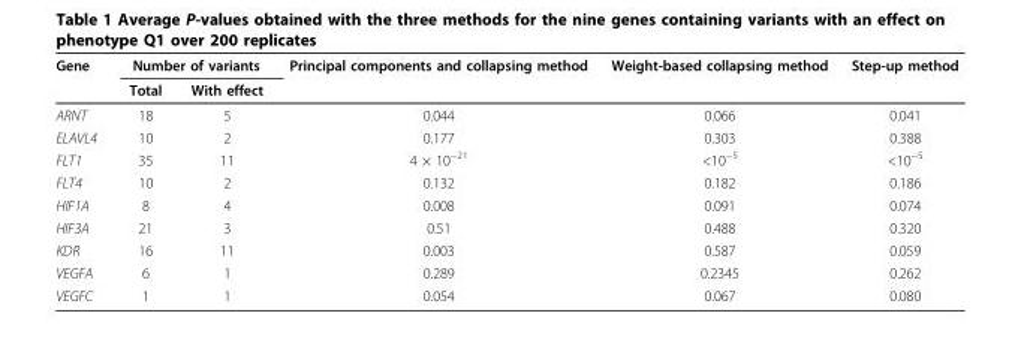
<table><thead><tr><td rowspan="2">Gene</td><td colspan="2">Number of variants</td><td rowspan="2">Principal components and collapsing method</td><td rowspan="2">Weight-based collapsing method</td><td rowspan="2">Step-up method</td></tr><tr><td>Total</td><td>With effect</td></tr></thead><tbody><tr><td>ARNT</td><td>18</td><td>5</td><td>0.044</td><td>0.066</td><td>0.041</td></tr><tr><td>ELAVL4</td><td>10</td><td>2</td><td>0.177</td><td>0.303</td><td>0.388</td></tr><tr><td>FLT1</td><td>35</td><td>11</td><td>4 × 10<sup>−21</sup></td><td>&lt;10<sup>−5</sup></td><td>&lt;10<sup>−5</sup></td></tr><tr><td>FLT4</td><td>10</td><td>2</td><td>0.132</td><td>0.182</td><td>0.186</td></tr><tr><td>HIF1A</td><td>8</td><td>4</td><td>0.008</td><td>0.091</td><td>0.074</td></tr><tr><td>HIF3A</td><td>21</td><td>3</td><td>0.51</td><td>0.488</td><td>0.320</td></tr><tr><td>KDR</td><td>16</td><td>11</td><td>0.003</td><td>0.587</td><td>0.059</td></tr><tr><td>VEGFA</td><td>6</td><td>1</td><td>0.289</td><td>0.2345</td><td>0.262</td></tr><tr><td>VEGFC</td><td>1</td><td>1</td><td>0.054</td><td>0.067</td><td>0.080</td></tr></tbody></table>